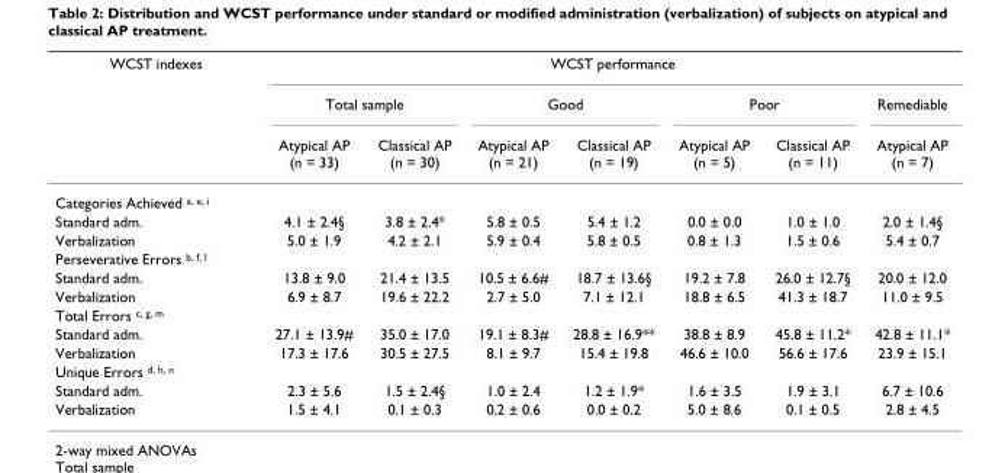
<table><thead><tr><td rowspan="3">WCST indexes</td><td colspan="7">WCST performance</td></tr><tr><td colspan="2">Total sample</td><td colspan="2">Good</td><td colspan="2">Poor</td><td rowspan="2">Remediable Atypical AP (n = 7)</td></tr><tr><td>Atypical AP (n = 33)</td><td>Classical AP (n = 30)</td><td>Atypical AP (n = 21)</td><td>Classical AP (n = 19)</td><td>Atypical AP (n = 5)</td><td>Classical AP (n = 11)</td></tr></thead><tbody><tr><td colspan="8">Categories Achieved <sup>a, e, i</sup></td></tr><tr><td>Standard adm.</td><td>4.1 ± 2.4§</td><td>3.8 ± 2.4*</td><td>5.8 ± 0.5</td><td>5.4 ± 1.2</td><td>0.0 ± 0.0</td><td>1.0 ± 1.0</td><td>2.0 ± 1.4§</td></tr><tr><td>Verbalization</td><td>5.0 ± 1.9</td><td>4.2 ± 2.1</td><td>5.9 ± 0.4</td><td>5.8 ± 0.5</td><td>0.8 ± 1.3</td><td>1.5 ± 0.6</td><td>5.4 ± 0.7</td></tr><tr><td colspan="8">Perseverative Errors <sup>b, f, l</sup></td></tr><tr><td>Standard adm.</td><td>13.8 ± 9.0</td><td>21.4 ± 13.5</td><td>10.5 ± 6.6#</td><td>18.7 ± 13.6§</td><td>19.2 ± 7.8</td><td>26.0 ± 12.7§</td><td>20.0 ± 12.0</td></tr><tr><td>Verbalization</td><td>6.9 ± 8.7</td><td>19.6 ± 22.2</td><td>2.7 ± 5.0</td><td>7.1 ± 12.1</td><td>18.8 ± 6.5</td><td>41.3 ± 18.7</td><td>11.0 ± 9.5</td></tr><tr><td colspan="8">Total Errors <sup>c, g, m</sup></td></tr><tr><td>Standard adm.</td><td>27.1 ± 13.9#</td><td>35.0 ± 17.0</td><td>19.1 ± 8.3#</td><td>28.8 ± 16.9**</td><td>38.8 ± 8.9</td><td>45.8 ± 11.2*</td><td>42.8 ± 11.1*</td></tr><tr><td>Verbalization</td><td>17.3 ± 17.6</td><td>30.5 ± 27.5</td><td>8.1 ± 9.7</td><td>15.4 ± 19.8</td><td>46.6 ± 10.0</td><td>56.6 ± 17.6</td><td>23.9 ± 15.1</td></tr><tr><td colspan="8">Unique Errors <sup>d, h, n</sup></td></tr><tr><td>Standard adm.</td><td>2.3 ± 5.6</td><td>1.5 ± 2.4§</td><td>1.0 ± 2.4</td><td>1.2 ± 1.9*</td><td>1.6 ± 3.5</td><td>1.9 ± 3.1</td><td>6.7 ± 10.6</td></tr><tr><td>Verbalization</td><td>1.5 ± 4.1</td><td>0.1 ± 0.3</td><td>0.2 ± 0.6</td><td>0.0 ± 0.2</td><td>5.0 ± 8.6</td><td>0.1 ± 0.5</td><td>2.8 ± 4.5</td></tr></tbody></table>